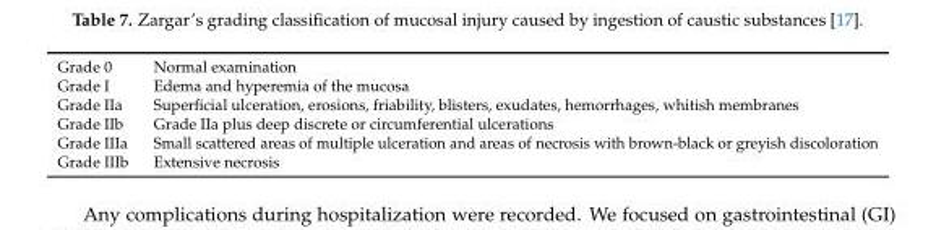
<table><tbody><tr><td>Grade 0</td><td>Normal examination</td></tr><tr><td>Grade I</td><td>Edema and hyperemia of the mucosa</td></tr><tr><td>Grade IIa</td><td>Superficial ulceration, erosions, friability, blisters, exudates, hemorrhages, whitish membranes</td></tr><tr><td>Grade IIb</td><td>Grade IIa plus deep discrete or circumferential ulcerations</td></tr><tr><td>Grade IIIa</td><td>Small scattered areas of multiple ulceration and areas of necrosis with brown-black or greyish discoloration</td></tr><tr><td>Grade IIIb</td><td>Extensive necrosis</td></tr></tbody></table>